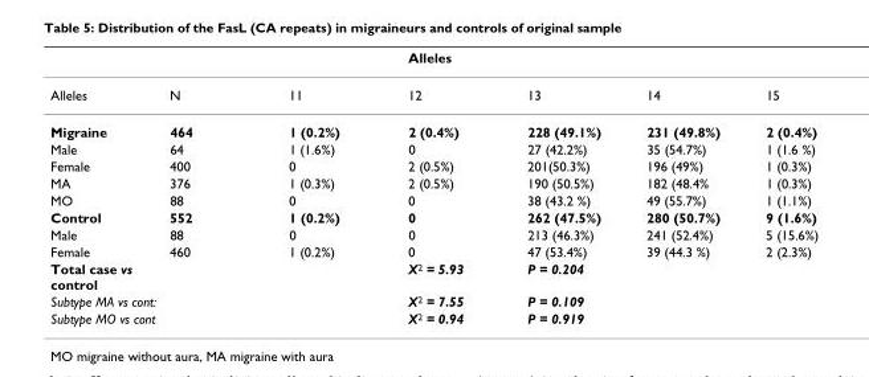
<table><thead><tr><td></td><td></td><td></td><td>Alleles</td><td></td><td></td><td></td></tr></thead><tbody><tr><td>Alleles</td><td>N</td><td>11</td><td>12</td><td>13</td><td>14</td><td>15</td></tr><tr><td>Migraine</td><td>464</td><td>1 (0.2%)</td><td>2 (0.4%)</td><td>228 (49.1%)</td><td>231 (49.8%)</td><td>2 (0.4%)</td></tr><tr><td>Male</td><td>64</td><td>1 (1.6%)</td><td>0</td><td>27 (42.2%)</td><td>35 (54.7%)</td><td>1 (1.6 %)</td></tr><tr><td>Female</td><td>400</td><td>0</td><td>2 (0.5%)</td><td>201(50.3%)</td><td>196 (49%)</td><td>1 (0.3%)</td></tr><tr><td>MA</td><td>376</td><td>1 (0.3%)</td><td>2 (0.5%)</td><td>190 (50.5%)</td><td>182 (48.4%</td><td>1 (0.3%)</td></tr><tr><td>MO</td><td>88</td><td>0</td><td>0</td><td>38 (43.2 %)</td><td>49 (55.7%)</td><td>1 (1.1%)</td></tr><tr><td>Control</td><td>552</td><td>1 (0.2%)</td><td>0</td><td>262 (47.5%)</td><td>280 (50.7%)</td><td>9 (1.6%)</td></tr><tr><td>Male</td><td>88</td><td>0</td><td>0</td><td>213 (46.3%)</td><td>241 (52.4%)</td><td>5 (15.6%)</td></tr><tr><td>Female</td><td>460</td><td>1 (0.2%)</td><td>0</td><td>47 (53.4%)</td><td>39 (44.3 %)</td><td>2 (2.3%)</td></tr><tr><td>Total case vs control</td><td></td><td></td><td>X<sup>2</sup> = 5.93</td><td>P = 0.204</td><td></td><td></td></tr><tr><td>Subtype MA vs cont:</td><td></td><td></td><td>X<sup>2</sup> = 7.55</td><td>P = 0.109</td><td></td><td></td></tr><tr><td>Subtype MO vs cont</td><td></td><td></td><td>X<sup>2</sup> = 0.94</td><td>P = 0.919</td><td></td><td></td></tr></tbody></table>